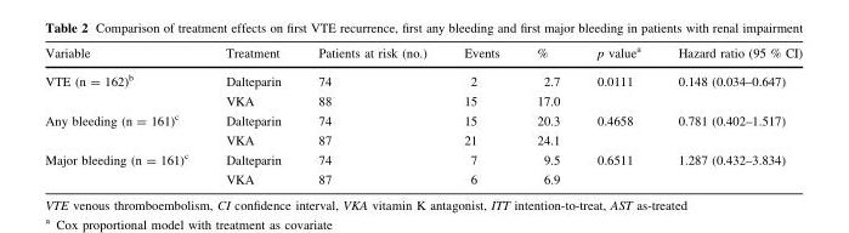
<table><thead><tr><td>Variable</td><td>Treatment</td><td>Patients at risk (no.)</td><td>Events</td><td>%</td><td>p value<sup>a</sup></td><td>Hazard ratio (95 % CI)</td></tr></thead><tbody><tr><td rowspan="2">VTE (n = 162)<sup>b</sup></td><td>Dalteparin</td><td>74</td><td>2</td><td>2.7</td><td rowspan="2">0.0111</td><td rowspan="2">0.148 (0.034–0.647)</td></tr><tr><td>VKA</td><td>88</td><td>15</td><td>17.0</td></tr><tr><td rowspan="2">Any bleeding (n = 161)<sup>c</sup></td><td>Dalteparin</td><td>74</td><td>15</td><td>20.3</td><td rowspan="2">0.4658</td><td rowspan="2">0.781 (0.402–1.517)</td></tr><tr><td>VKA</td><td>87</td><td>21</td><td>24.1</td></tr><tr><td rowspan="2">Major bleeding (n = 161)<sup>c</sup></td><td>Dalteparin</td><td>74</td><td>7</td><td>9.5</td><td rowspan="2">0.6511</td><td rowspan="2">1.287 (0.432–3.834)</td></tr><tr><td>VKA</td><td>87</td><td>6</td><td>6.9</td></tr></tbody></table>